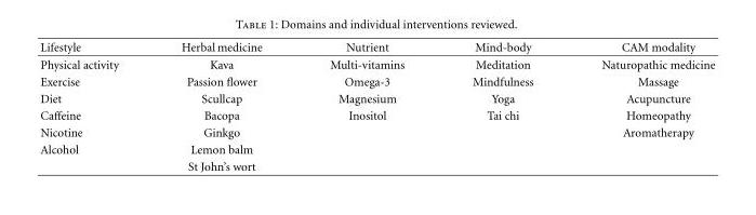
<table><thead><tr><td>Lifestyle</td><td>Herbal medicine</td><td>Nutrient</td><td>Mind-body</td><td>CAM modality</td></tr></thead><tbody><tr><td>Physical activity</td><td>Kava</td><td>Multi-vitamins</td><td>Meditation</td><td>Naturopathic medicine</td></tr><tr><td>Exercise</td><td>Passion flower</td><td>Omega-3</td><td>Mindfulness</td><td>Massage</td></tr><tr><td>Diet</td><td>Scullcap</td><td>Magnesium</td><td>Yoga</td><td>Acupuncture</td></tr><tr><td>Caffeine</td><td>Bacopa</td><td>Inositol</td><td>Tai chi</td><td>Homeopathy</td></tr><tr><td>Nicotine</td><td>Ginkgo</td><td></td><td></td><td>Aromatherapy</td></tr><tr><td rowspan="2">Alcohol</td><td>Lemon balm</td><td></td><td></td><td></td></tr><tr><td>St John’s wort</td><td></td><td></td><td></td></tr></tbody></table>